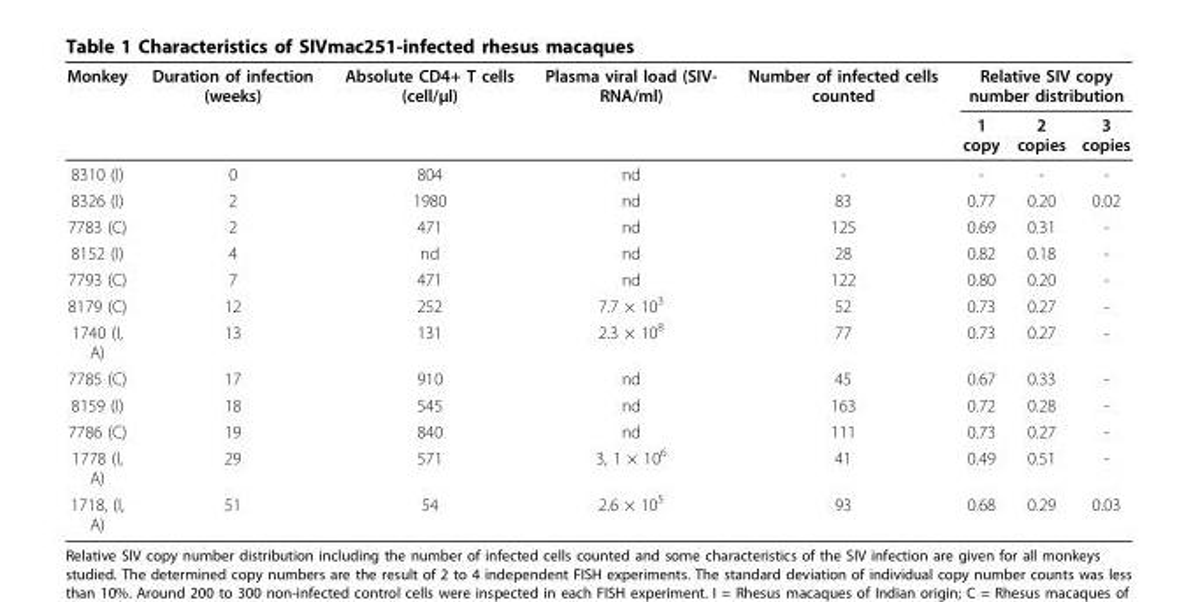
<table><thead><tr><td rowspan="2">Monkey</td><td rowspan="2">Duration of infection (weeks)</td><td rowspan="2">Absolute CD4+ T cells (cell/μl)</td><td rowspan="2">Plasma viral load (SIV- RNA/ml)</td><td rowspan="2">Number of infected cells counted</td><td colspan="3">Relative SIV copy number distribution</td></tr><tr><td>1 copy</td><td>2 copies</td><td>3 copies</td></tr></thead><tbody><tr><td>8310 (I)</td><td>0</td><td>804</td><td>nd</td><td>-</td><td>-</td><td>-</td><td>-</td></tr><tr><td>8326 (I)</td><td>2</td><td>1980</td><td>nd</td><td>83</td><td>0.77</td><td>0.20</td><td>0.02</td></tr><tr><td>7783 (C)</td><td>2</td><td>471</td><td>nd</td><td>125</td><td>0.69</td><td>0.31</td><td>-</td></tr><tr><td>8152 (I)</td><td>4</td><td>nd</td><td>nd</td><td>28</td><td>0.82</td><td>0.18</td><td>-</td></tr><tr><td>7793 (C)</td><td>7</td><td>471</td><td>nd</td><td>122</td><td>0.80</td><td>0.20</td><td>-</td></tr><tr><td>8179 (C)</td><td>12</td><td>252</td><td>7.7 × 10<sup>3</sup></td><td>52</td><td>0.73</td><td>0.27</td><td>-</td></tr><tr><td>1740 (I, A)</td><td>13</td><td>131</td><td>2.3 × 10<sup>8</sup></td><td>77</td><td>0.73</td><td>0.27</td><td>-</td></tr><tr><td>7785 (C)</td><td>17</td><td>910</td><td>nd</td><td>45</td><td>0.67</td><td>0.33</td><td>-</td></tr><tr><td>8159 (I)</td><td>18</td><td>545</td><td>nd</td><td>163</td><td>0.72</td><td>0.28</td><td>-</td></tr><tr><td>7786 (C)</td><td>19</td><td>840</td><td>nd</td><td>111</td><td>0.73</td><td>0.27</td><td>-</td></tr><tr><td>1778 (I, A)</td><td>29</td><td>571</td><td>3, 1 × 10<sup>6</sup></td><td>41</td><td>0.49</td><td>0.51</td><td>-</td></tr><tr><td>1718, (I, A)</td><td>51</td><td>54</td><td>2.6 × 10<sup>5</sup></td><td>93</td><td>0.68</td><td>0.29</td><td>0.03</td></tr></tbody></table>